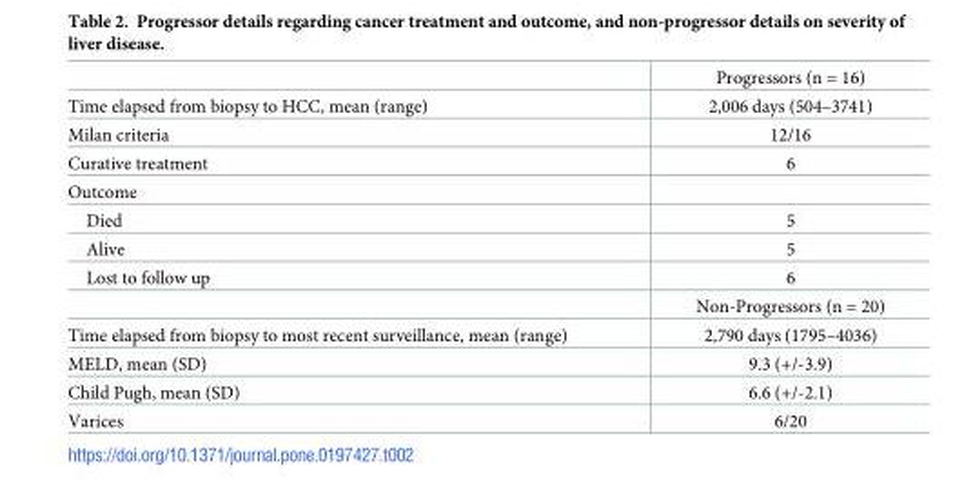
<table><thead><tr><td></td><td>Progressors (n = 16)</td></tr></thead><tbody><tr><td>Time elapsed from biopsy to HCC, mean (range)</td><td>2,006 days (504–3741)</td></tr><tr><td>Milan criteria</td><td>12/16</td></tr><tr><td>Curative treatment</td><td>6</td></tr><tr><td colspan="2">Outcome</td></tr><tr><td>Died</td><td>5</td></tr><tr><td>Alive</td><td>5</td></tr><tr><td rowspan="2">Lost to follow up</td><td>6</td></tr><tr><td>Non-Progressors (n = 20)</td></tr><tr><td>Time elapsed from biopsy to most recent surveillance, mean (range)</td><td>2,790 days (1795–4036)</td></tr><tr><td>MELD, mean (SD)</td><td>9.3 (+/-3.9)</td></tr><tr><td>Child Pugh, mean (SD)</td><td>6.6 (+/-2.1)</td></tr><tr><td>Varices</td><td>6/20</td></tr></tbody></table>